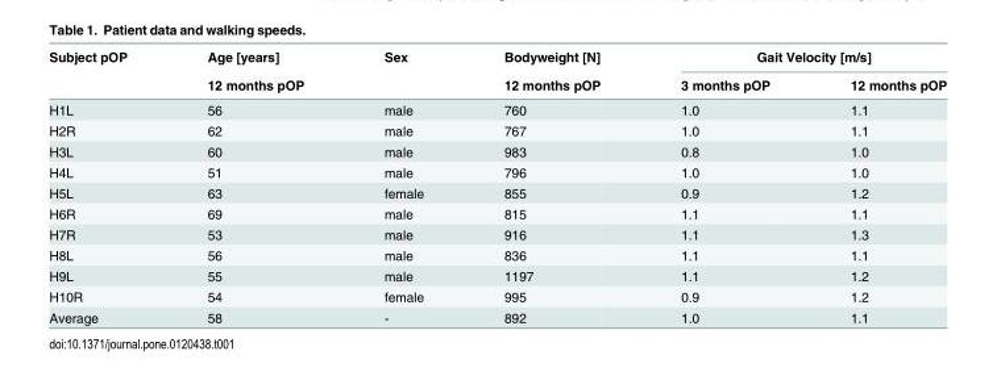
<table><thead><tr><td rowspan="2">Subject pOP</td><td rowspan="2">Age [years] 12 months pOP</td><td rowspan="2">Sex</td><td rowspan="2">Bodyweight [N] 12 months pOP</td><td colspan="2">Gait Velocity [m/s]</td></tr><tr><td>3 months pOP</td><td>12 months pOP</td></tr></thead><tbody><tr><td>H1L</td><td>56</td><td>male</td><td>760</td><td>1.0</td><td>1.1</td></tr><tr><td>H2R</td><td>62</td><td>male</td><td>767</td><td>1.0</td><td>1.1</td></tr><tr><td>H3L</td><td>60</td><td>male</td><td>983</td><td>0.8</td><td>1.0</td></tr><tr><td>H4L</td><td>51</td><td>male</td><td>796</td><td>1.0</td><td>1.0</td></tr><tr><td>H5L</td><td>63</td><td>female</td><td>855</td><td>0.9</td><td>1.2</td></tr><tr><td>H6R</td><td>69</td><td>male</td><td>815</td><td>1.1</td><td>1.1</td></tr><tr><td>H7R</td><td>53</td><td>male</td><td>916</td><td>1.1</td><td>1.3</td></tr><tr><td>H8L</td><td>56</td><td>male</td><td>836</td><td>1.1</td><td>1.1</td></tr><tr><td>H9L</td><td>55</td><td>male</td><td>1197</td><td>1.1</td><td>1.2</td></tr><tr><td>H10R</td><td>54</td><td>female</td><td>995</td><td>0.9</td><td>1.2</td></tr><tr><td>Average</td><td>58</td><td>-</td><td>892</td><td>1.0</td><td>1.1</td></tr></tbody></table>